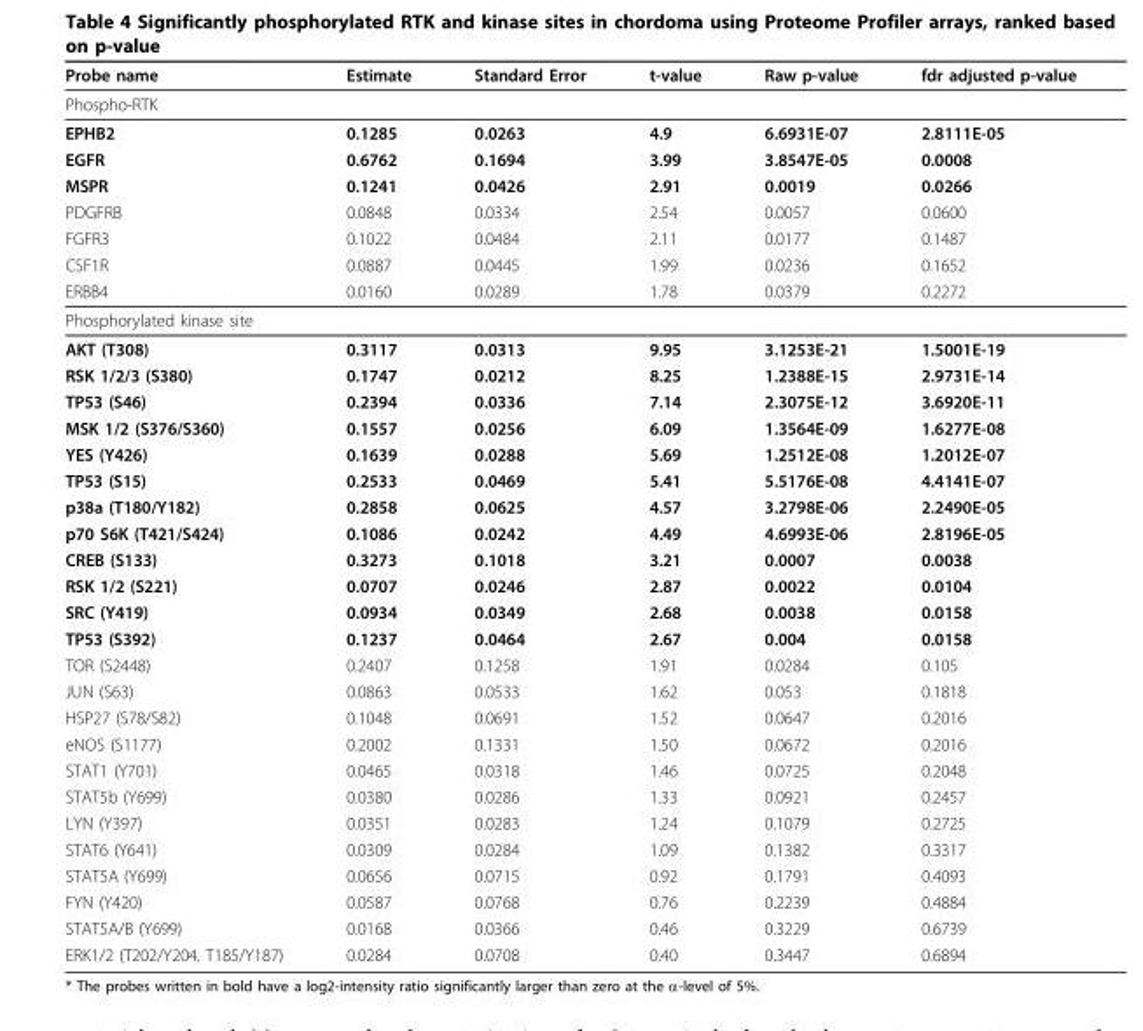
<table><thead><tr><td>Probe name</td><td>Estimate</td><td>Standard Error</td><td>t-value</td><td>Raw p-value</td><td>fdr adjusted p-value</td></tr></thead><tbody><tr><td colspan="6">Phospho-RTK</td></tr><tr><td>EPHB2</td><td>0.1285</td><td>0.0263</td><td>4.9</td><td>6.6931E-07</td><td>2.8111E-05</td></tr><tr><td>EGFR</td><td>0.6762</td><td>0.1694</td><td>3.99</td><td>3.8547E-05</td><td>0.0008</td></tr><tr><td>MSPR</td><td>0.1241</td><td>0.0426</td><td>2.91</td><td>0.0019</td><td>0.0266</td></tr><tr><td>PDGFRB</td><td>0.0848</td><td>0.0334</td><td>2.54</td><td>0.0057</td><td>0.0600</td></tr><tr><td>FGFR3</td><td>0.1022</td><td>0.0484</td><td>2.11</td><td>0.0177</td><td>0.1487</td></tr><tr><td>CSF1R</td><td>0.0887</td><td>0.0445</td><td>1.99</td><td>0.0236</td><td>0.1652</td></tr><tr><td>ERBB4</td><td>0.0160</td><td>0.0289</td><td>1.78</td><td>0.0379</td><td>0.2272</td></tr><tr><td colspan="6">Phosphorylated kinase site</td></tr><tr><td>AKT (T308)</td><td>0.3117</td><td>0.0313</td><td>9.95</td><td>3.1253E-21</td><td>1.5001E-19</td></tr><tr><td>RSK 1/2/3 (S380)</td><td>0.1747</td><td>0.0212</td><td>8.25</td><td>1.2388E-15</td><td>2.9731E-14</td></tr><tr><td>TP53 (S46)</td><td>0.2394</td><td>0.0336</td><td>7.14</td><td>2.3075E-12</td><td>3.6920E-11</td></tr><tr><td>MSK 1/2 (S376/S360)</td><td>0.1557</td><td>0.0256</td><td>6.09</td><td>1.3564E-09</td><td>1.6277E-08</td></tr><tr><td>YES (Y426)</td><td>0.1639</td><td>0.0288</td><td>5.69</td><td>1.2512E-08</td><td>1.2012E-07</td></tr><tr><td>TP53 (S15)</td><td>0.2533</td><td>0.0469</td><td>5.41</td><td>5.5176E-08</td><td>4.4141E-07</td></tr><tr><td>p38a (T180/Y182)</td><td>0.2858</td><td>0.0625</td><td>4.57</td><td>3.2798E-06</td><td>2.2490E-05</td></tr><tr><td>p70 S6K (T421/S424)</td><td>0.1086</td><td>0.0242</td><td>4.49</td><td>4.6993E-06</td><td>2.8196E-05</td></tr><tr><td>CREB (S133)</td><td>0.3273</td><td>0.1018</td><td>3.21</td><td>0.0007</td><td>0.0038</td></tr><tr><td>RSK 1/2 (S221)</td><td>0.0707</td><td>0.0246</td><td>2.87</td><td>0.0022</td><td>0.0104</td></tr><tr><td>SRC (Y419)</td><td>0.0934</td><td>0.0349</td><td>2.68</td><td>0.0038</td><td>0.0158</td></tr><tr><td>TP53 (S392)</td><td>0.1237</td><td>0.0464</td><td>2.67</td><td>0.004</td><td>0.0158</td></tr><tr><td>TOR (S2448)</td><td>0.2407</td><td>0.1258</td><td>1.91</td><td>0.0284</td><td>0.105</td></tr><tr><td>JUN (S63)</td><td>0.0863</td><td>0.0533</td><td>1.62</td><td>0.053</td><td>0.1818</td></tr><tr><td>HSP27 (S78/S82)</td><td>0.1048</td><td>0.0691</td><td>1.52</td><td>0.0647</td><td>0.2016</td></tr><tr><td>eNOS (S1177)</td><td>0.2002</td><td>0.1331</td><td>1.50</td><td>0.0672</td><td>0.2016</td></tr><tr><td>STAT1 (Y701)</td><td>0.0465</td><td>0.0318</td><td>1.46</td><td>0.0725</td><td>0.2048</td></tr><tr><td>STAT5b (Y699)</td><td>0.0380</td><td>0.0286</td><td>1.33</td><td>0.0921</td><td>0.2457</td></tr><tr><td>LYN (Y397)</td><td>0.0351</td><td>0.0283</td><td>1.24</td><td>0.1079</td><td>0.2725</td></tr><tr><td>STAT6 (Y641)</td><td>0.0309</td><td>0.0284</td><td>1.09</td><td>0.1382</td><td>0.3317</td></tr><tr><td>STAT5A (Y699)</td><td>0.0656</td><td>0.0715</td><td>0.92</td><td>0.1791</td><td>0.4093</td></tr><tr><td>FYN (Y420)</td><td>0.0587</td><td>0.0768</td><td>0.76</td><td>0.2239</td><td>0.4884</td></tr><tr><td>STAT5A/B (Y699)</td><td>0.0168</td><td>0.0366</td><td>0.46</td><td>0.3229</td><td>0.6739</td></tr><tr><td>ERK1/2 (T202/Y204. T185/Y187)</td><td>0.0284</td><td>0.0708</td><td>0.40</td><td>0.3447</td><td>0.6894</td></tr></tbody></table>